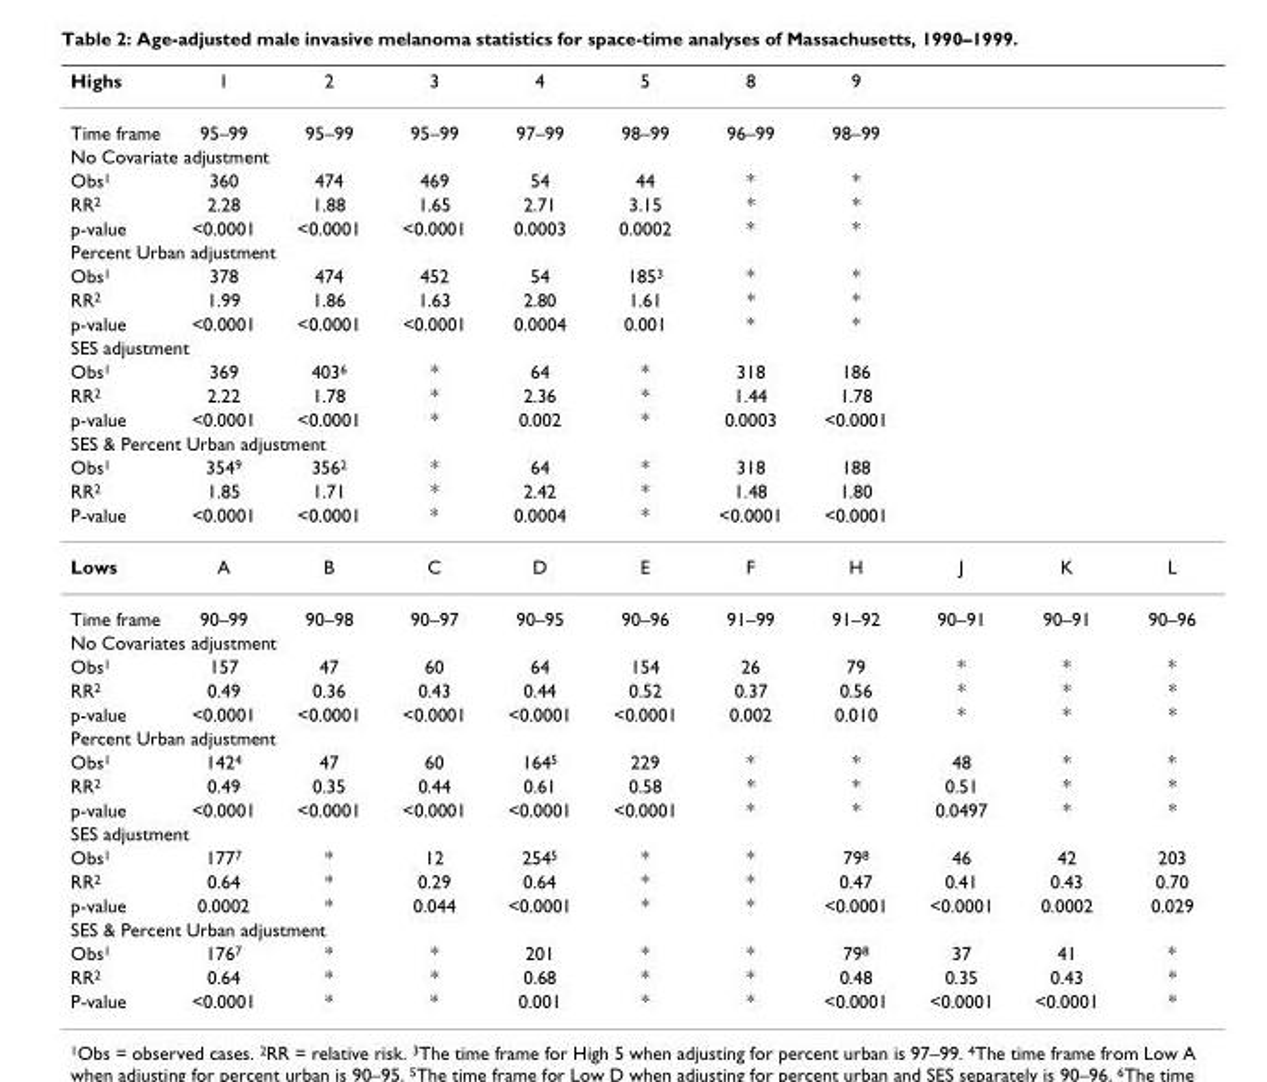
<table><thead><tr><td>Highs</td><td>1</td><td>2</td><td>3</td><td>4</td><td>5</td><td>8</td><td>9</td><td></td><td></td><td></td></tr></thead><tbody><tr><td>Time frame</td><td>95–99</td><td>95–99</td><td>95–99</td><td>97–99</td><td>98–99</td><td>96–99</td><td>98–99</td><td></td><td></td><td></td></tr><tr><td colspan="11">No Covariate adjustment</td></tr><tr><td>Obs<sup>1</sup></td><td>360</td><td>474</td><td>469</td><td>54</td><td>44</td><td>*</td><td>*</td><td></td><td></td><td></td></tr><tr><td>RR<sup>2</sup></td><td>2.28</td><td>1.88</td><td>1.65</td><td>2.71</td><td>3.15</td><td>*</td><td>*</td><td></td><td></td><td></td></tr><tr><td>p-value</td><td>&lt;0.0001</td><td>&lt;0.0001</td><td>&lt;0.0001</td><td>0.0003</td><td>0.0002</td><td>*</td><td>*</td><td></td><td></td><td></td></tr><tr><td colspan="11">Percent Urban adjustment</td></tr><tr><td>Obs<sup>1</sup></td><td>378</td><td>474</td><td>452</td><td>54</td><td>185<sup>3</sup></td><td>*</td><td>*</td><td></td><td></td><td></td></tr><tr><td>RR<sup>2</sup></td><td>1.99</td><td>1.86</td><td>1.63</td><td>2.80</td><td>1.61</td><td>*</td><td>*</td><td></td><td></td><td></td></tr><tr><td>p-value</td><td>&lt;0.0001</td><td>&lt;0.0001</td><td>&lt;0.0001</td><td>0.0004</td><td>0.001</td><td>*</td><td>*</td><td></td><td></td><td></td></tr><tr><td colspan="11">SES adjustment</td></tr><tr><td>Obs<sup>1</sup></td><td>369</td><td>403<sup>6</sup></td><td>*</td><td>64</td><td>*</td><td>318</td><td>186</td><td></td><td></td><td></td></tr><tr><td>RR<sup>2</sup></td><td>2.22</td><td>1.78</td><td>*</td><td>2.36</td><td>*</td><td>1.44</td><td>1.78</td><td></td><td></td><td></td></tr><tr><td>p-value</td><td>&lt;0.0001</td><td>&lt;0.0001</td><td>*</td><td>0.002</td><td>*</td><td>0.0003</td><td>&lt;0.0001</td><td></td><td></td><td></td></tr><tr><td colspan="11">SES &amp; Percent Urban adjustment</td></tr><tr><td>Obs<sup>1</sup></td><td>354<sup>9</sup></td><td>356<sup>2</sup></td><td>*</td><td>64</td><td>*</td><td>318</td><td>188</td><td></td><td></td><td></td></tr><tr><td>RR<sup>2</sup></td><td>1.85</td><td>1.71</td><td>*</td><td>2.42</td><td>*</td><td>1.48</td><td>1.80</td><td></td><td></td><td></td></tr><tr><td>P-value</td><td>&lt;0.0001</td><td>&lt;0.0001</td><td>*</td><td>0.0004</td><td>*</td><td>&lt;0.0001</td><td>&lt;0.0001</td><td></td><td></td><td></td></tr><tr><td>Lows</td><td>A</td><td>B</td><td>C</td><td>D</td><td>E</td><td>F</td><td>H</td><td>J</td><td>K</td><td>L</td></tr><tr><td>Time frame</td><td>90–99</td><td>90–98</td><td>90–97</td><td>90–95</td><td>90–96</td><td>91–99</td><td>91–92</td><td>90–91</td><td>90–91</td><td>90–96</td></tr><tr><td colspan="11">No Covariates adjustment</td></tr><tr><td>Obs<sup>1</sup></td><td>157</td><td>47</td><td>60</td><td>64</td><td>154</td><td>26</td><td>79</td><td>*</td><td>*</td><td>*</td></tr><tr><td>RR<sup>2</sup></td><td>0.49</td><td>0.36</td><td>0.43</td><td>0.44</td><td>0.52</td><td>0.37</td><td>0.56</td><td>*</td><td>*</td><td>*</td></tr><tr><td>p-value</td><td>&lt;0.0001</td><td>&lt;0.0001</td><td>&lt;0.0001</td><td>&lt;0.0001</td><td>&lt;0.0001</td><td>0.002</td><td>0.010</td><td>*</td><td>*</td><td>*</td></tr><tr><td colspan="11">Percent Urban adjustment</td></tr><tr><td>Obs<sup>1</sup></td><td>142<sup>4</sup></td><td>47</td><td>60</td><td>164<sup>5</sup></td><td>229</td><td>*</td><td>*</td><td>48</td><td>*</td><td>*</td></tr><tr><td>RR<sup>2</sup></td><td>0.49</td><td>0.35</td><td>0.44</td><td>0.61</td><td>0.58</td><td>*</td><td>*</td><td>0.51</td><td>*</td><td>*</td></tr><tr><td>p-value</td><td>&lt;0.0001</td><td>&lt;0.0001</td><td>&lt;0.0001</td><td>&lt;0.0001</td><td>&lt;0.0001</td><td>*</td><td>*</td><td>0.0497</td><td>*</td><td>*</td></tr><tr><td colspan="11">SES adjustment</td></tr><tr><td>Obs<sup>1</sup></td><td>177<sup>7</sup></td><td>*</td><td>12</td><td>254<sup>5</sup></td><td>*</td><td>*</td><td>79<sup>8</sup></td><td>46</td><td>42</td><td>203</td></tr><tr><td>RR<sup>2</sup></td><td>0.64</td><td>*</td><td>0.29</td><td>0.64</td><td>*</td><td>*</td><td>0.47</td><td>0.41</td><td>0.43</td><td>0.70</td></tr><tr><td>p-value</td><td>0.0002</td><td>*</td><td>0.044</td><td>&lt;0.0001</td><td>*</td><td>*</td><td>&lt;0.0001</td><td>&lt;0.0001</td><td>0.0002</td><td>0.029</td></tr><tr><td colspan="11">SES &amp; Percent Urban adjustment</td></tr><tr><td>Obs<sup>1</sup></td><td>176<sup>7</sup></td><td>*</td><td>*</td><td>201</td><td>*</td><td>*</td><td>79<sup>8</sup></td><td>37</td><td>41</td><td>*</td></tr><tr><td>RR<sup>2</sup></td><td>0.64</td><td>*</td><td>*</td><td>0.68</td><td>*</td><td>*</td><td>0.48</td><td>0.35</td><td>0.43</td><td>*</td></tr><tr><td>P-value</td><td>&lt;0.0001</td><td>*</td><td>*</td><td>0.001</td><td>*</td><td>*</td><td>&lt;0.0001</td><td>&lt;0.0001</td><td>&lt;0.0001</td><td>*</td></tr></tbody></table>